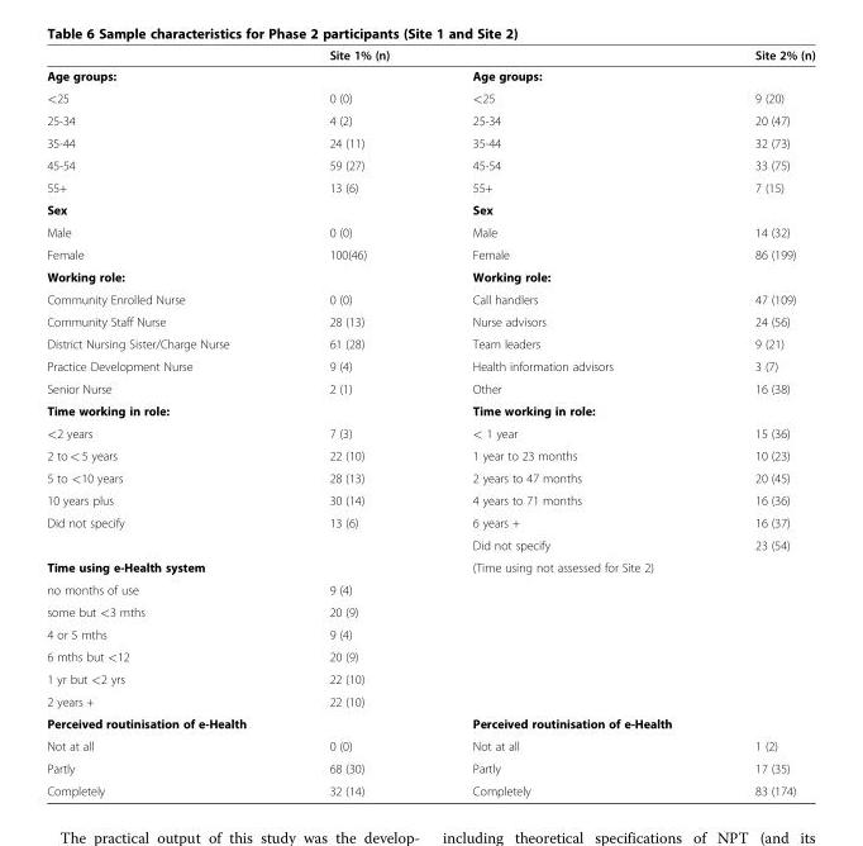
<table><thead><tr><td></td><td>Site 1% (n)</td><td></td><td>Site 2% (n)</td></tr></thead><tbody><tr><td>Age groups:</td><td></td><td>Age groups:</td><td></td></tr><tr><td>&lt;25</td><td>0 (0)</td><td>&lt;25</td><td>9 (20)</td></tr><tr><td>25-34</td><td>4 (2)</td><td>25-34</td><td>20 (47)</td></tr><tr><td>35-44</td><td>24 (11)</td><td>35-44</td><td>32 (73)</td></tr><tr><td>45-54</td><td>59 (27)</td><td>45-54</td><td>33 (75)</td></tr><tr><td>55+</td><td>13 (6)</td><td>55+</td><td>7 (15)</td></tr><tr><td>Sex</td><td></td><td>Sex</td><td></td></tr><tr><td>Male</td><td>0 (0)</td><td>Male</td><td>14 (32)</td></tr><tr><td>Female</td><td>100(46)</td><td>Female</td><td>86 (199)</td></tr><tr><td>Working role:</td><td></td><td>Working role:</td><td></td></tr><tr><td>Community Enrolled Nurse</td><td>0 (0)</td><td>Call handlers</td><td>47 (109)</td></tr><tr><td>Community Staff Nurse</td><td>28 (13)</td><td>Nurse advisors</td><td>24 (56)</td></tr><tr><td>District Nursing Sister/Charge Nurse</td><td>61 (28)</td><td>Team leaders</td><td>9 (21)</td></tr><tr><td>Practice Development Nurse</td><td>9 (4)</td><td>Health information advisors</td><td>3 (7)</td></tr><tr><td>Senior Nurse</td><td>2 (1)</td><td>Other</td><td>16 (38)</td></tr><tr><td>Time working in role:</td><td></td><td>Time working in role:</td><td></td></tr><tr><td>&lt;2 years</td><td>7 (3)</td><td>&lt; 1 year</td><td>15 (36)</td></tr><tr><td>2 to &lt; 5 years</td><td>22 (10)</td><td>1 year to 23 months</td><td>10 (23)</td></tr><tr><td>5 to &lt;10 years</td><td>28 (13)</td><td>2 years to 47 months</td><td>20 (45)</td></tr><tr><td>10 years plus</td><td>30 (14)</td><td>4 years to 71 months</td><td>16 (36)</td></tr><tr><td rowspan="2">Did not specify</td><td>13 (6)</td><td>6 years +</td><td>16 (37)</td></tr><tr><td></td><td>Did not specify</td><td>23 (54)</td></tr><tr><td>Time using e-Health system</td><td></td><td>(Time using not assessed for Site 2)</td><td></td></tr><tr><td>no months of use</td><td>9 (4)</td><td></td><td></td></tr><tr><td>some but &lt;3 mths</td><td>20 (9)</td><td></td><td></td></tr><tr><td>4 or 5 mths</td><td>9 (4)</td><td></td><td></td></tr><tr><td>6 mths but &lt;12</td><td>20 (9)</td><td></td><td></td></tr><tr><td>1 yr but &lt;2 yrs</td><td>22 (10)</td><td></td><td></td></tr><tr><td>2 years +</td><td>22 (10)</td><td></td><td></td></tr><tr><td>Perceived routinisation of e-Health</td><td></td><td>Perceived routinisation of e-Health</td><td></td></tr><tr><td>Not at all</td><td>0 (0)</td><td>Not at all</td><td>1 (2)</td></tr><tr><td>Partly</td><td>68 (30)</td><td>Partly</td><td>17 (35)</td></tr><tr><td>Completely</td><td>32 (14)</td><td>Completely</td><td>83 (174)</td></tr></tbody></table>